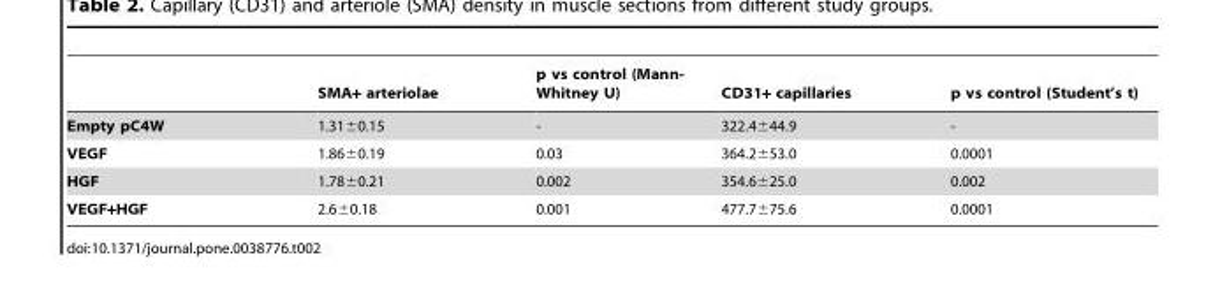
<table><thead><tr><td></td><td>SMA+ arteriolae</td><td>p vs control (Mann- Whitney U)</td><td>CD31+ capillaries</td><td>p vs control (Student’s t)</td></tr></thead><tbody><tr><td>Empty pC4W</td><td>1.31±0.15</td><td>-</td><td>322.4±44.9</td><td>-</td></tr><tr><td>VEGF</td><td>1.86±0.19</td><td>0.03</td><td>364.2±53.0</td><td>0.0001</td></tr><tr><td>HGF</td><td>1.78±0.21</td><td>0.002</td><td>354.6±25.0</td><td>0.002</td></tr><tr><td>VEGF+HGF</td><td>2.6±0.18</td><td>0.001</td><td>477.7±75.6</td><td>0.0001</td></tr></tbody></table>